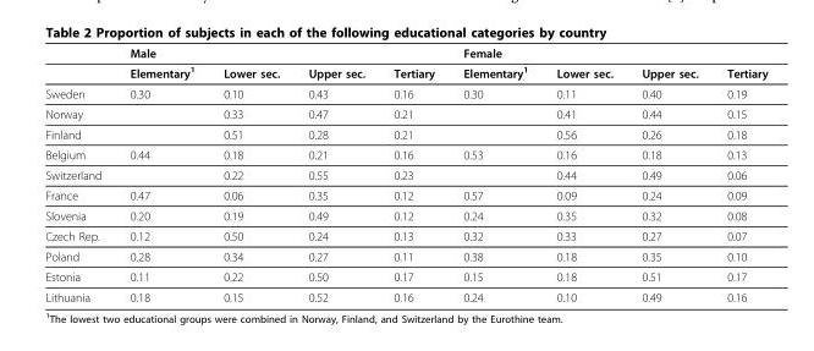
<table><thead><tr><td rowspan="2"></td><td colspan="4">Male</td><td colspan="4">Female</td></tr><tr><td>Elementary<sup>1</sup></td><td>Lower sec.</td><td>Upper sec.</td><td>Tertiary</td><td>Elementary<sup>1</sup></td><td>Lower sec.</td><td>Upper sec.</td><td>Tertiary</td></tr></thead><tbody><tr><td>Sweden</td><td>0.30</td><td>0.10</td><td>0.43</td><td>0.16</td><td>0.30</td><td>0.11</td><td>0.40</td><td>0.19</td></tr><tr><td>Norway</td><td></td><td>0.33</td><td>0.47</td><td>0.21</td><td></td><td>0.41</td><td>0.44</td><td>0.15</td></tr><tr><td>Finland</td><td></td><td>0.51</td><td>0.28</td><td>0.21</td><td></td><td>0.56</td><td>0.26</td><td>0.18</td></tr><tr><td>Belgium</td><td>0.44</td><td>0.18</td><td>0.21</td><td>0.16</td><td>0.53</td><td>0.16</td><td>0.18</td><td>0.13</td></tr><tr><td>Switzerland</td><td></td><td>0.22</td><td>0.55</td><td>0.23</td><td></td><td>0.44</td><td>0.49</td><td>0.06</td></tr><tr><td>France</td><td>0.47</td><td>0.06</td><td>0.35</td><td>0.12</td><td>0.57</td><td>0.09</td><td>0.24</td><td>0.09</td></tr><tr><td>Slovenia</td><td>0.20</td><td>0.19</td><td>0.49</td><td>0.12</td><td>0.24</td><td>0.35</td><td>0.32</td><td>0.08</td></tr><tr><td>Czech Rep.</td><td>0.12</td><td>0.50</td><td>0.24</td><td>0.13</td><td>0.32</td><td>0.33</td><td>0.27</td><td>0.07</td></tr><tr><td>Poland</td><td>0.28</td><td>0.34</td><td>0.27</td><td>0.11</td><td>0.38</td><td>0.18</td><td>0.35</td><td>0.10</td></tr><tr><td>Estonia</td><td>0.11</td><td>0.22</td><td>0.50</td><td>0.17</td><td>0.15</td><td>0.18</td><td>0.51</td><td>0.17</td></tr><tr><td>Lithuania</td><td>0.18</td><td>0.15</td><td>0.52</td><td>0.16</td><td>0.24</td><td>0.10</td><td>0.49</td><td>0.16</td></tr></tbody></table>